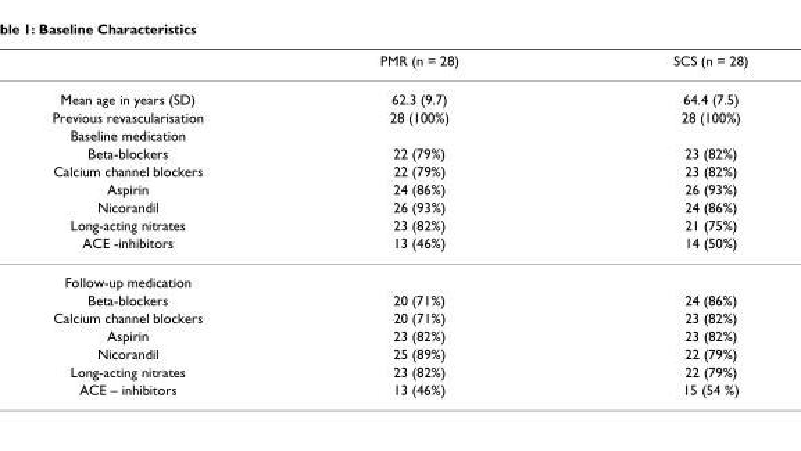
<table><thead><tr><td></td><td>PMR (n = 28)</td><td>SCS (n = 28)</td></tr></thead><tbody><tr><td>Mean age in years (SD)</td><td>62.3 (9.7)</td><td>64.4 (7.5)</td></tr><tr><td>Previous revascularisation</td><td>28 (100%)</td><td>28 (100%)</td></tr><tr><td colspan="3">Baseline medication</td></tr><tr><td>Beta-blockers</td><td>22 (79%)</td><td>23 (82%)</td></tr><tr><td>Calcium channel blockers</td><td>22 (79%)</td><td>23 (82%)</td></tr><tr><td>Aspirin</td><td>24 (86%)</td><td>26 (93%)</td></tr><tr><td>Nicorandil</td><td>26 (93%)</td><td>24 (86%)</td></tr><tr><td>Long-acting nitrates</td><td>23 (82%)</td><td>21 (75%)</td></tr><tr><td>ACE -inhibitors</td><td>13 (46%)</td><td>14 (50%)</td></tr><tr><td colspan="3">Follow-up medication</td></tr><tr><td>Beta-blockers</td><td>20 (71%)</td><td>24 (86%)</td></tr><tr><td>Calcium channel blockers</td><td>20 (71%)</td><td>23 (82%)</td></tr><tr><td>Aspirin</td><td>23 (82%)</td><td>23 (82%)</td></tr><tr><td>Nicorandil</td><td>25 (89%)</td><td>22 (79%)</td></tr><tr><td>Long-acting nitrates</td><td>23 (82%)</td><td>22 (79%)</td></tr><tr><td>ACE – inhibitors</td><td>13 (46%)</td><td>15 (54 %)</td></tr></tbody></table>